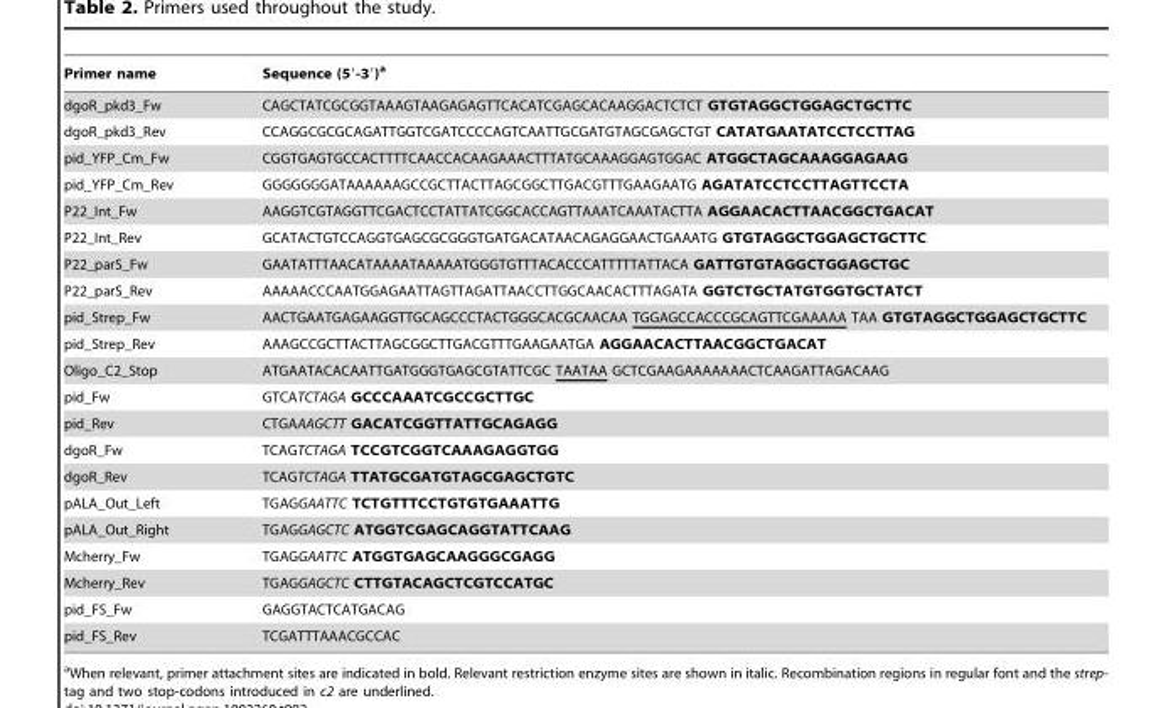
<table><thead><tr><td>Primer name</td><td>Sequence (5′-3′)<sup>a</sup></td></tr></thead><tbody><tr><td>dgoR_pkd3_Fw</td><td>CAGCTATCGCGGTAAAGTAAGAGAGTTCACATCGAGCACAAGGACTCTCT GTGTAGGCTGGAGCTGCTTC</td></tr><tr><td>dgoR_pkd3_Rev</td><td>CCAGGCGCGCAGATTGGTCGATCCCCAGTCAATTGCGATGTAGCGAGCTGT CATATGAATATCCTCCTTAG</td></tr><tr><td>pid_YFP_Cm_Fw</td><td>CGGTGAGTGCCACTTTTCAACCACAAGAAACTTTATGCAAAGGAGTGGAC ATGGCTAGCAAAGGAGAAG</td></tr><tr><td>pid_YFP_Cm_Rev</td><td>GGGGGGGATAAAAAAGCCGCTTACTTAGCGGCTTGACGTTTGAAGAATG AGATATCCTCCTTAGTTCCTA</td></tr><tr><td>P22_Int_Fw</td><td>AAGGTCGTAGGTTCGACTCCTATTATCGGCACCAGTTAAATCAAATACTTA AGGAACACTTAACGGCTGACAT</td></tr><tr><td>P22_Int_Rev</td><td>GCATACTGTCCAGGTGAGCGCGGGTGATGACATAACAGAGGAACTGAAATG GTGTAGGCTGGAGCTGCTTC</td></tr><tr><td>P22_parS_Fw</td><td>GAATATTTAACATAAAATAAAAATGGGTGTTTACACCCATTTTTATTACA GATTGTGTAGGCTGGAGCTGC</td></tr><tr><td>P22_parS_Rev</td><td>AAAAACCCAATGGAGAATTAGTTAGATTAACCTTGGCAACACTTTAGATA GGTCTGCTATGTGGTGCTATCT</td></tr><tr><td>pid_Strep_Fw</td><td>AACTGAATGAGAAGGTTGCAGCCCTACTGGGCACGCAACAA TGGAGCCACCCGCAGTTCGAAAAA TAA GTGTAGGCTGGAGCTGCTTC</td></tr><tr><td>pid_Strep_Rev</td><td>AAAGCCGCTTACTTAGCGGCTTGACGTTTGAAGAATGA AGGAACACTTAACGGCTGACAT</td></tr><tr><td>Oligo_C2_Stop</td><td>ATGAATACACAATTGATGGGTGAGCGTATTCGC TAATAA GCTCGAAGAAAAAAACTCAAGATTAGACAAG</td></tr><tr><td>pid_Fw</td><td>GTCATCTAGA GCCCAAATCGCCGCTTGC</td></tr><tr><td>pid_Rev</td><td>CTGAAAGCTT GACATCGGTTATTGCAGAGG</td></tr><tr><td>dgoR_Fw</td><td>TCAGTCTAGA TCCGTCGGTCAAAGAGGTGG</td></tr><tr><td>dgoR_Rev</td><td>TCAGTCTAGA TTATGCGATGTAGCGAGCTGTC</td></tr><tr><td>pALA_Out_Left</td><td>TGAGGAATTC TCTGTTTCCTGTGTGAAATTG</td></tr><tr><td>pALA_Out_Right</td><td>TGAGGAGCTC ATGGTCGAGCAGGTATTCAAG</td></tr><tr><td>Mcherry_Fw</td><td>TGAGGAATTC ATGGTGAGCAAGGGCGAGG</td></tr><tr><td>Mcherry_Rev</td><td>TGAGGAGCTC CTTGTACAGCTCGTCCATGC</td></tr><tr><td>pid_FS_Fw</td><td>GAGGTACTCATGACAG</td></tr><tr><td>pid_FS_Rev</td><td>TCGATTTAAACGCCAC</td></tr></tbody></table>